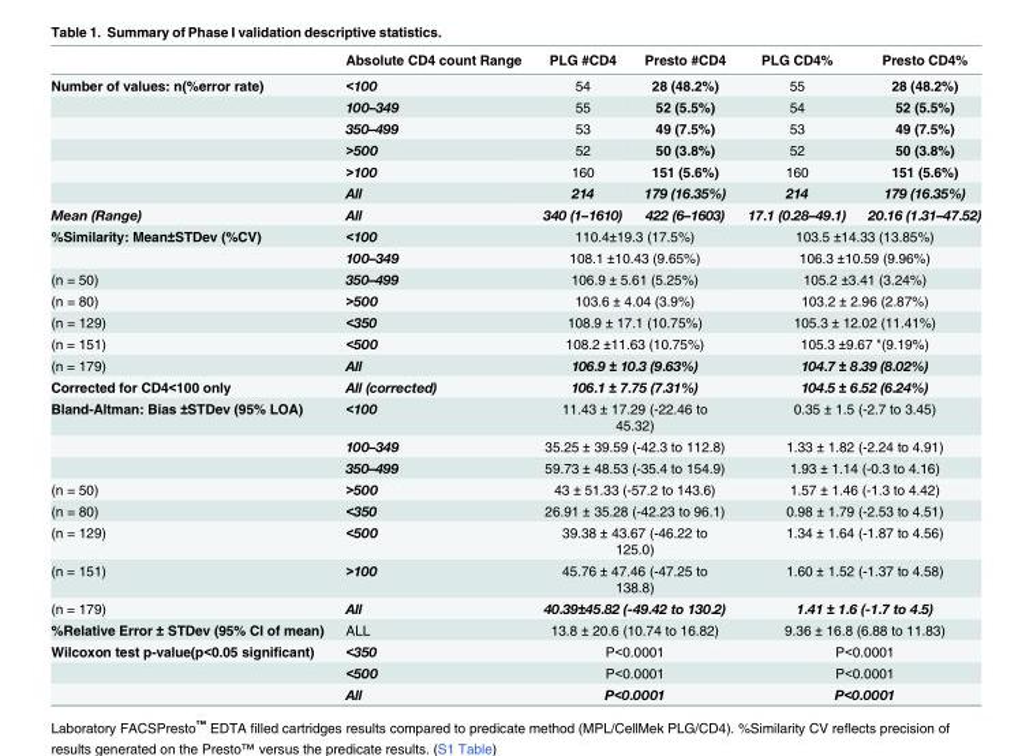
<table><thead><tr><td></td><td>Absolute CD4 count Range</td><td>PLG #CD4</td><td>Presto #CD4</td><td>PLG CD4%</td><td>Presto CD4%</td></tr></thead><tbody><tr><td rowspan="6">Number of values: n(%error rate)</td><td>&lt;100</td><td>54</td><td>28 (48.2%)</td><td>55</td><td>28 (48.2%)</td></tr><tr><td>100–349</td><td>55</td><td>52 (5.5%)</td><td>54</td><td>52 (5.5%)</td></tr><tr><td>350–499</td><td>53</td><td>49 (7.5%)</td><td>53</td><td>49 (7.5%)</td></tr><tr><td>&gt;500</td><td>52</td><td>50 (3.8%)</td><td>52</td><td>50 (3.8%)</td></tr><tr><td>&gt;100</td><td>160</td><td>151 (5.6%)</td><td>160</td><td>151 (5.6%)</td></tr><tr><td>All</td><td>214</td><td>179 (16.35%)</td><td>214</td><td>179 (16.35%)</td></tr><tr><td>Mean (Range)</td><td>All</td><td>340 (1–1610)</td><td>422 (6–1603)</td><td>17.1 (0.28–49.1)</td><td>20.16 (1.31–47.52)</td></tr><tr><td rowspan="2">%Similarity: Mean±STDev (%CV)</td><td>&lt;100</td><td colspan="2">110.4±19.3 (17.5%)</td><td colspan="2">103.5 ±14.33 (13.85%)</td></tr><tr><td>100–349</td><td colspan="2">108.1 ±10.43 (9.65%)</td><td colspan="2">106.3 ±10.59 (9.96%)</td></tr><tr><td>(n = 50)</td><td>350–499</td><td colspan="2">106.9 ± 5.61 (5.25%)</td><td colspan="2">105.2 ±3.41 (3.24%)</td></tr><tr><td>(n = 80)</td><td>&gt;500</td><td colspan="2">103.6 ± 4.04 (3.9%)</td><td colspan="2">103.2 ± 2.96 (2.87%)</td></tr><tr><td>(n = 129)</td><td>&lt;350</td><td colspan="2">108.9 ± 17.1 (10.75%)</td><td colspan="2">105.3 ± 12.02 (11.41%)</td></tr><tr><td>(n = 151)</td><td>&lt;500</td><td colspan="2">108.2 ±11.63 (10.75%)</td><td colspan="2">105.3 ±9.67 &quot;(9.19%)</td></tr><tr><td>(n = 179)</td><td>All</td><td colspan="2">106.9 ± 10.3 (9.63%)</td><td colspan="2">104.7 ± 8.39 (8.02%)</td></tr><tr><td>Corrected for CD4&lt;100 only</td><td>All (corrected)</td><td colspan="2">106.1 ± 7.75 (7.31%)</td><td colspan="2">104.5 ± 6.52 (6.24%)</td></tr><tr><td rowspan="3">Bland-Altman: Bias ±STDev (95% LOA)</td><td>&lt;100</td><td colspan="2">11.43 ± 17.29 (-22.46 to 45.32)</td><td colspan="2">0.35 ± 1.5 (-2.7 to 3.45)</td></tr><tr><td>100–349</td><td colspan="2">35.25 ± 39.59 (-42.3 to 112.8)</td><td colspan="2">1.33 ± 1.82 (-2.24 to 4.91)</td></tr><tr><td>350–499</td><td colspan="2">59.73 ± 48.53 (-35.4 to 154.9)</td><td colspan="2">1.93 ± 1.14 (-0.3 to 4.16)</td></tr><tr><td>(n = 50)</td><td>&gt;500</td><td colspan="2">43 ± 51.33 (-57.2 to 143.6)</td><td colspan="2">1.57 ± 1.46 (-1.3 to 4.42)</td></tr><tr><td>(n = 80)</td><td>&lt;350</td><td colspan="2">26.91 ± 35.28 (-42.23 to 96.1)</td><td colspan="2">0.98 ± 1.79 (-2.53 to 4.51)</td></tr><tr><td>(n = 129)</td><td>&lt;500</td><td colspan="2">39.38 ± 43.67 (-46.22 to 125.0)</td><td colspan="2">1.34 ± 1.64 (-1.87 to 4.56)</td></tr><tr><td>(n = 151)</td><td>&gt;100</td><td colspan="2">45.76 ± 47.46 (-47.25 to 138.8)</td><td colspan="2">1.60 ± 1.52 (-1.37 to 4.58)</td></tr><tr><td>(n = 179)</td><td>All</td><td colspan="2">40.39±45.82 (-49.42 to 130.2)</td><td colspan="2">1.41 ± 1.6 (-1.7 to 4.5)</td></tr><tr><td>%Relative Error ± STDev (95% CI of mean)</td><td>ALL</td><td colspan="2">13.8 ± 20.6 (10.74 to 16.82)</td><td colspan="2">9.36 ± 16.8 (6.88 to 11.83)</td></tr><tr><td rowspan="3">Wilcoxon test p-value(p&lt;0.05 significant)</td><td>&lt;350</td><td colspan="2">P&lt;0.0001</td><td colspan="2">P&lt;0.0001</td></tr><tr><td>&lt;500</td><td colspan="2">P&lt;0.0001</td><td colspan="2">P&lt;0.0001</td></tr><tr><td>All</td><td colspan="2">P&lt;0.0001</td><td colspan="2">P&lt;0.0001</td></tr></tbody></table>